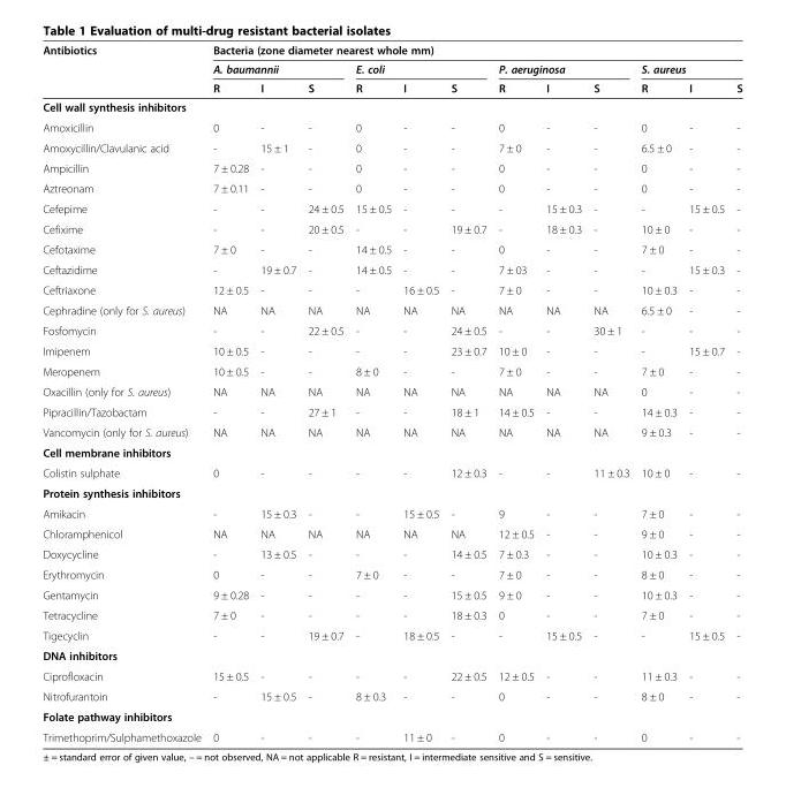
<table><thead><tr><td rowspan="3">Antibiotics</td><td colspan="12">Bacteria (zone diameter nearest whole mm)</td></tr><tr><td colspan="3">A. baumannii</td><td colspan="3">E. coli</td><td colspan="3">P. aeruginosa</td><td colspan="3">S. aureus</td></tr><tr><td>R</td><td>I</td><td>S</td><td>R</td><td>I</td><td>S</td><td>R</td><td>I</td><td>S</td><td>R</td><td>I</td><td>S</td></tr></thead><tbody><tr><td colspan="13">Cell wall synthesis inhibitors</td></tr><tr><td>Amoxicillin</td><td>0</td><td>-</td><td>-</td><td>0</td><td>-</td><td>-</td><td>0</td><td>-</td><td>-</td><td>0</td><td>-</td><td>-</td></tr><tr><td>Amoxycillin/Clavulanic acid</td><td>-</td><td>15 ± 1</td><td>-</td><td>0</td><td>-</td><td>-</td><td>7 ± 0</td><td>-</td><td>-</td><td>6.5 ± 0</td><td>-</td><td>-</td></tr><tr><td>Ampicillin</td><td>7 ± 0.28</td><td>-</td><td>-</td><td>0</td><td>-</td><td>-</td><td>0</td><td>-</td><td>-</td><td>0</td><td>-</td><td>-</td></tr><tr><td>Aztreonam</td><td>7 ± 0.11</td><td>-</td><td>-</td><td>0</td><td>-</td><td>-</td><td>0</td><td>-</td><td>-</td><td>0</td><td>-</td><td>-</td></tr><tr><td>Cefepime</td><td>-</td><td>-</td><td>24 ± 0.5</td><td>15 ± 0.5</td><td>-</td><td>-</td><td>-</td><td>15 ± 0.3</td><td>-</td><td>-</td><td>15 ± 0.5</td><td>-</td></tr><tr><td>Cefixime</td><td>-</td><td>-</td><td>20 ± 0.5</td><td>-</td><td>-</td><td>19 ± 0.7</td><td>-</td><td>18 ± 0.3</td><td>-</td><td>10 ± 0</td><td>-</td><td>-</td></tr><tr><td>Cefotaxime</td><td>7 ± 0</td><td>-</td><td>-</td><td>14 ± 0.5</td><td>-</td><td>-</td><td>0</td><td>-</td><td>-</td><td>7 ± 0</td><td>-</td><td>-</td></tr><tr><td>Ceftazidime</td><td>-</td><td>19 ± 0.7</td><td>-</td><td>14 ± 0.5</td><td>-</td><td>-</td><td>7 ± 03</td><td>-</td><td>-</td><td>-</td><td>15 ± 0.3</td><td>-</td></tr><tr><td>Ceftriaxone</td><td>12 ± 0.5</td><td>-</td><td>-</td><td>-</td><td>16 ± 0.5</td><td>-</td><td>7 ± 0</td><td>-</td><td>-</td><td>10 ± 0.3</td><td>-</td><td>-</td></tr><tr><td>Cephradine (only for S. aureus)</td><td>NA</td><td>NA</td><td>NA</td><td>NA</td><td>NA</td><td>NA</td><td>NA</td><td>NA</td><td>NA</td><td>6.5 ± 0</td><td>-</td><td>-</td></tr><tr><td>Fosfomycin</td><td>-</td><td>-</td><td>22 ± 0.5</td><td>-</td><td>-</td><td>24 ± 0.5</td><td>-</td><td>-</td><td>30 ± 1</td><td>-</td><td>-</td><td>-</td></tr><tr><td>Imipenem</td><td>10 ± 0.5</td><td>-</td><td>-</td><td>-</td><td>-</td><td>23 ± 0.7</td><td>10 ± 0</td><td>-</td><td>-</td><td>-</td><td>15 ± 0.7</td><td>-</td></tr><tr><td>Meropenem</td><td>10 ± 0.5</td><td>-</td><td>-</td><td>8 ± 0</td><td>-</td><td>-</td><td>7 ± 0</td><td>-</td><td>-</td><td>7 ± 0</td><td>-</td><td>-</td></tr><tr><td>Oxacillin (only for S. aureus)</td><td>NA</td><td>NA</td><td>NA</td><td>NA</td><td>NA</td><td>NA</td><td>NA</td><td>NA</td><td>NA</td><td>0</td><td>-</td><td>-</td></tr><tr><td>Pipracillin/Tazobactam</td><td>-</td><td>-</td><td>27 ± 1</td><td>-</td><td>-</td><td>18 ± 1</td><td>14 ± 0.5</td><td>-</td><td>-</td><td>14 ± 0.3</td><td>-</td><td>-</td></tr><tr><td>Vancomycin (only for S. aureus)</td><td>NA</td><td>NA</td><td>NA</td><td>NA</td><td>NA</td><td>NA</td><td>NA</td><td>NA</td><td>NA</td><td>9 ± 0.3</td><td>-</td><td>-</td></tr><tr><td colspan="13">Cell membrane inhibitors</td></tr><tr><td>Colistin sulphate</td><td>0</td><td>-</td><td>-</td><td>-</td><td>-</td><td>12 ± 0.3</td><td>-</td><td>-</td><td>11 ± 0.3</td><td>10 ± 0</td><td>-</td><td>-</td></tr><tr><td colspan="13">Protein synthesis inhibitors</td></tr><tr><td>Amikacin</td><td>-</td><td>15 ± 0.3</td><td>-</td><td>-</td><td>15 ± 0.5</td><td>-</td><td>9</td><td>-</td><td>-</td><td>7 ± 0</td><td>-</td><td>-</td></tr><tr><td>Chloramphenicol</td><td>NA</td><td>NA</td><td>NA</td><td>NA</td><td>NA</td><td>NA</td><td>12 ± 0.5</td><td>-</td><td>-</td><td>9 ± 0</td><td>-</td><td>-</td></tr><tr><td>Doxycycline</td><td>-</td><td>13 ± 0.5</td><td>-</td><td>-</td><td>-</td><td>14 ± 0.5</td><td>7 ± 0.3</td><td>-</td><td>-</td><td>10 ± 0.3</td><td>-</td><td>-</td></tr><tr><td>Erythromycin</td><td>0</td><td>-</td><td>-</td><td>7 ± 0</td><td>-</td><td>-</td><td>7 ± 0</td><td>-</td><td>-</td><td>8 ± 0</td><td>-</td><td>-</td></tr><tr><td>Gentamycin</td><td>9 ± 0.28</td><td>-</td><td>-</td><td>-</td><td>-</td><td>15 ± 0.5</td><td>9 ± 0</td><td>-</td><td>-</td><td>10 ± 0.3</td><td>-</td><td>-</td></tr><tr><td>Tetracycline</td><td>7 ± 0</td><td>-</td><td>-</td><td>-</td><td>-</td><td>18 ± 0.3</td><td>0</td><td>-</td><td>-</td><td>7 ± 0</td><td>-</td><td>-</td></tr><tr><td>Tigecyclin</td><td>-</td><td>-</td><td>19 ± 0.7</td><td>-</td><td>18 ± 0.5</td><td>-</td><td>-</td><td>15 ± 0.5</td><td>-</td><td>-</td><td>15 ± 0.5</td><td>-</td></tr><tr><td colspan="13">DNA inhibitors</td></tr><tr><td>Ciprofloxacin</td><td>15 ± 0.5</td><td>-</td><td>-</td><td>-</td><td>-</td><td>22 ± 0.5</td><td>12 ± 0.5</td><td>-</td><td>-</td><td>11 ± 0.3</td><td>-</td><td>-</td></tr><tr><td>Nitrofurantoin</td><td>-</td><td>15 ± 0.5</td><td>-</td><td>8 ± 0.3</td><td>-</td><td>-</td><td>0</td><td>-</td><td>-</td><td>8 ± 0</td><td>-</td><td>-</td></tr><tr><td colspan="13">Folate pathway inhibitors</td></tr><tr><td>Trimethoprim/Sulphamethoxazole</td><td>0</td><td>-</td><td>-</td><td>-</td><td>11 ± 0</td><td>-</td><td>0</td><td>-</td><td>-</td><td>0</td><td>-</td><td>-</td></tr></tbody></table>